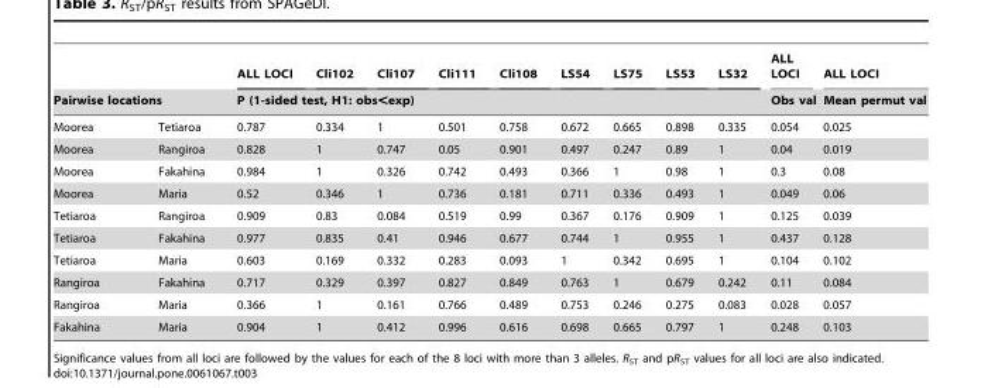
<table><thead><tr><td></td><td></td><td>ALL LOCI</td><td>Cli102</td><td>Cli107</td><td>Cli111</td><td>Cli108</td><td>LS54</td><td>LS75</td><td>LS53</td><td rowspan="2">LS32</td><td rowspan="2">ALL LOCI Obs val</td><td rowspan="2">ALL LOCI Mean permut val</td></tr><tr><td colspan="2">Pairwise locations</td><td colspan="8">P (1-sided test, H1: obs&lt;exp)</td></tr></thead><tbody><tr><td>Moorea</td><td>Tetiaroa</td><td>0.787</td><td>0.334</td><td>1</td><td>0.501</td><td>0.758</td><td>0.672</td><td>0.665</td><td>0.898</td><td>0.335</td><td>0.054</td><td>0.025</td></tr><tr><td>Moorea</td><td>Rangiroa</td><td>0.828</td><td>1</td><td>0.747</td><td>0.05</td><td>0.901</td><td>0.497</td><td>0.247</td><td>0.89</td><td>1</td><td>0.04</td><td>0.019</td></tr><tr><td>Moorea</td><td>Fakahina</td><td>0.984</td><td>1</td><td>0.326</td><td>0.742</td><td>0.493</td><td>0.366</td><td>1</td><td>0.98</td><td>1</td><td>0.3</td><td>0.08</td></tr><tr><td>Moorea</td><td>Maria</td><td>0.52</td><td>0.346</td><td>1</td><td>0.736</td><td>0.181</td><td>0.711</td><td>0.336</td><td>0.493</td><td>1</td><td>0.049</td><td>0.06</td></tr><tr><td>Tetiaroa</td><td>Rangiroa</td><td>0.909</td><td>0.83</td><td>0.084</td><td>0.519</td><td>0.99</td><td>0.367</td><td>0.176</td><td>0.909</td><td>1</td><td>0.125</td><td>0.039</td></tr><tr><td>Tetiaroa</td><td>Fakahina</td><td>0.977</td><td>0.835</td><td>0.41</td><td>0.946</td><td>0.677</td><td>0.744</td><td>1</td><td>0.955</td><td>1</td><td>0.437</td><td>0.128</td></tr><tr><td>Tetiaroa</td><td>Maria</td><td>0.603</td><td>0.169</td><td>0.332</td><td>0.283</td><td>0.093</td><td>1</td><td>0.342</td><td>0.695</td><td>1</td><td>0.104</td><td>0.102</td></tr><tr><td>Rangiroa</td><td>Fakahina</td><td>0.717</td><td>0.329</td><td>0.397</td><td>0.827</td><td>0.849</td><td>0.763</td><td>1</td><td>0.679</td><td>0.242</td><td>0.11</td><td>0.084</td></tr><tr><td>Rangiroa</td><td>Maria</td><td>0.366</td><td>1</td><td>0.161</td><td>0.766</td><td>0.489</td><td>0.753</td><td>0.246</td><td>0.275</td><td>0.083</td><td>0.028</td><td>0.057</td></tr><tr><td>Fakahina</td><td>Maria</td><td>0.904</td><td>1</td><td>0.412</td><td>0.996</td><td>0.616</td><td>0.698</td><td>0.665</td><td>0.797</td><td>1</td><td>0.248</td><td>0.103</td></tr></tbody></table>